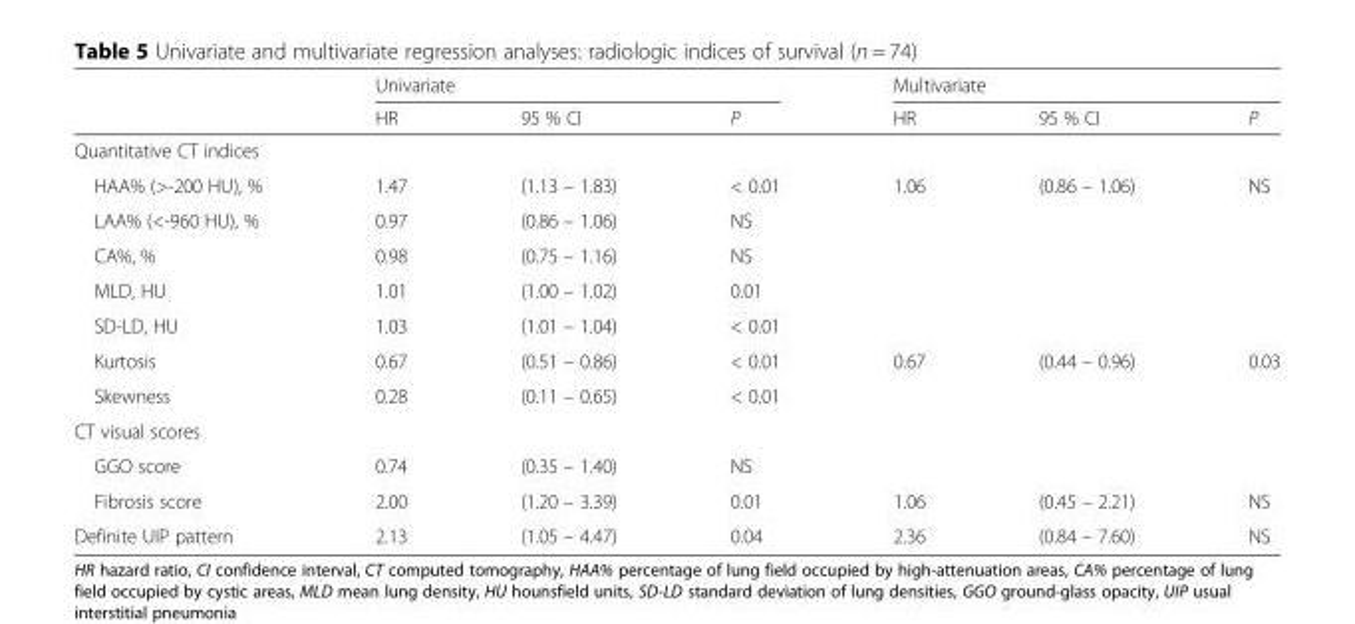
<table><thead><tr><td rowspan="2"></td><td colspan="3">Univariate</td><td colspan="3">Multivariate</td></tr><tr><td>HR</td><td>95 % CI</td><td>P</td><td>HR</td><td>95 % CI</td><td>P</td></tr></thead><tbody><tr><td colspan="7">Quantitative CT indices</td></tr><tr><td>HAA% (&gt;-200 HU), %</td><td>1.47</td><td>(1.13 – 1.83)</td><td>&lt; 0.01</td><td>1.06</td><td>(0.86 – 1.06)</td><td>NS</td></tr><tr><td>LAA% (&lt;-960 HU), %</td><td>0.97</td><td>(0.86 – 1.06)</td><td>NS</td><td></td><td></td><td></td></tr><tr><td>CA%, %</td><td>0.98</td><td>(0.75 – 1.16)</td><td>NS</td><td></td><td></td><td></td></tr><tr><td>MLD, HU</td><td>1.01</td><td>(1.00 – 1.02)</td><td>0.01</td><td></td><td></td><td></td></tr><tr><td>SD-LD, HU</td><td>1.03</td><td>(1.01 – 1.04)</td><td>&lt; 0.01</td><td></td><td></td><td></td></tr><tr><td>Kurtosis</td><td>0.67</td><td>(0.51 – 0.86)</td><td>&lt; 0.01</td><td>0.67</td><td>(0.44 – 0.96)</td><td>0.03</td></tr><tr><td>Skewness</td><td>0.28</td><td>(0.11 – 0.65)</td><td>&lt; 0.01</td><td></td><td></td><td></td></tr><tr><td colspan="7">CT visual scores</td></tr><tr><td>GGO score</td><td>0.74</td><td>(0.35 – 1.40)</td><td>NS</td><td></td><td></td><td></td></tr><tr><td>Fibrosis score</td><td>2.00</td><td>(1.20 – 3.39)</td><td>0.01</td><td>1.06</td><td>(0.45 – 2.21)</td><td>NS</td></tr><tr><td>Definite UIP pattern</td><td>2.13</td><td>(1.05 – 4.47)</td><td>0.04</td><td>2.36</td><td>(0.84 – 7.60)</td><td>NS</td></tr></tbody></table>